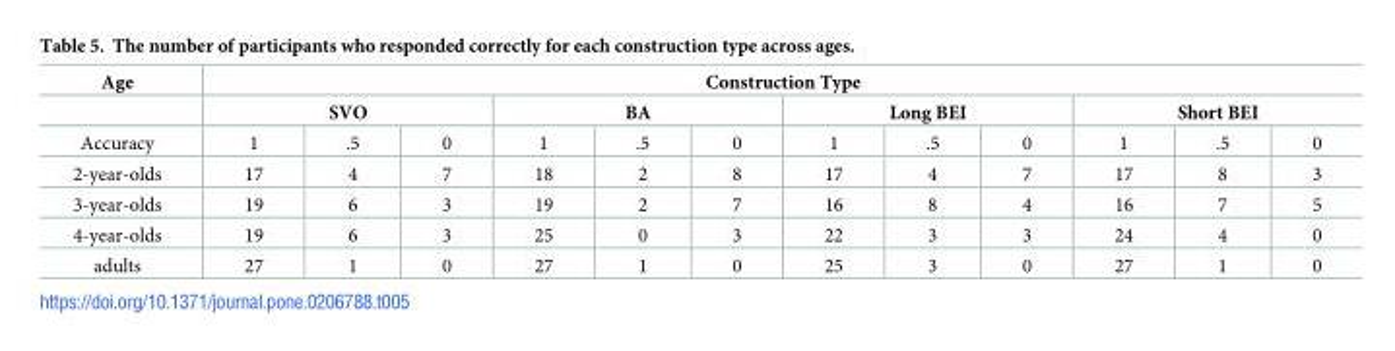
<table><thead><tr><td rowspan="3">Age Accuracy</td><td colspan="12">Construction Type</td></tr><tr><td colspan="3">SVO</td><td colspan="3">BA</td><td colspan="3">Long BEI</td><td colspan="3">Short BEI</td></tr><tr><td>1</td><td>.5</td><td>0</td><td>1</td><td>.5</td><td>0</td><td>1</td><td>.5</td><td>0</td><td>1</td><td>.5</td><td>0</td></tr></thead><tbody><tr><td>2-year-olds</td><td>17</td><td>4</td><td>7</td><td>18</td><td>2</td><td>8</td><td>17</td><td>4</td><td>7</td><td>17</td><td>8</td><td>3</td></tr><tr><td>3-year-olds</td><td>19</td><td>6</td><td>3</td><td>19</td><td>2</td><td>7</td><td>16</td><td>8</td><td>4</td><td>16</td><td>7</td><td>5</td></tr><tr><td>4-year-olds</td><td>19</td><td>6</td><td>3</td><td>25</td><td>0</td><td>3</td><td>22</td><td>3</td><td>3</td><td>24</td><td>4</td><td>0</td></tr><tr><td>adults</td><td>27</td><td>1</td><td>0</td><td>27</td><td>1</td><td>0</td><td>25</td><td>3</td><td>0</td><td>27</td><td>1</td><td>0</td></tr></tbody></table>